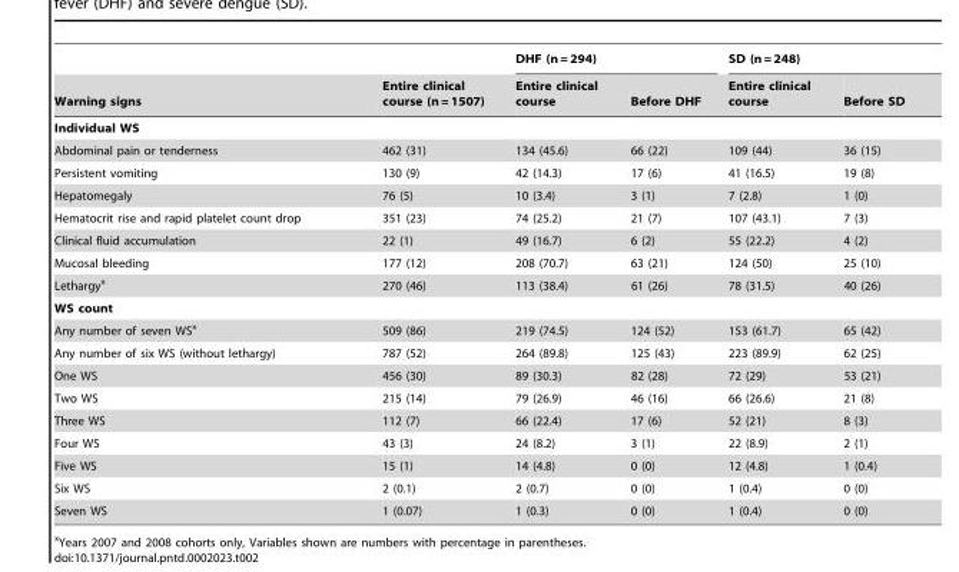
<table><thead><tr><td rowspan="2">Warning signs</td><td rowspan="2">Entire clinical course (n = 1507)</td><td colspan="2">DHF (n = 294)</td><td colspan="2">SD (n = 248)</td></tr><tr><td>Entire clinical course</td><td>Before DHF</td><td>Entire clinical course</td><td>Before SD</td></tr></thead><tbody><tr><td colspan="6">Individual WS</td></tr><tr><td>Abdominal pain or tenderness</td><td>462 (31)</td><td>134 (45.6)</td><td>66 (22)</td><td>109 (44)</td><td>36 (15)</td></tr><tr><td>Persistent vomiting</td><td>130 (9)</td><td>42 (14.3)</td><td>17 (6)</td><td>41 (16.5)</td><td>19 (8)</td></tr><tr><td>Hepatomegaly</td><td>76 (5)</td><td>10 (3.4)</td><td>3 (1)</td><td>7 (2.8)</td><td>1 (0)</td></tr><tr><td>Hematocrit rise and rapid platelet count drop</td><td>351 (23)</td><td>74 (25.2)</td><td>21 (7)</td><td>107 (43.1)</td><td>7 (3)</td></tr><tr><td>Clinical fluid accumulation</td><td>22 (1)</td><td>49 (16.7)</td><td>6 (2)</td><td>55 (22.2)</td><td>4 (2)</td></tr><tr><td>Mucosal bleeding</td><td>177 (12)</td><td>208 (70.7)</td><td>63 (21)</td><td>124 (50)</td><td>25 (10)</td></tr><tr><td>Lethargy<sup>x</sup></td><td>270 (46)</td><td>113 (38.4)</td><td>61 (26)</td><td>78 (31.5)</td><td>40 (26)</td></tr><tr><td colspan="6">WS count</td></tr><tr><td>Any number of seven WS<sup>x</sup></td><td>509 (86)</td><td>219 (74.5)</td><td>124 (52)</td><td>153 (61.7)</td><td>65 (42)</td></tr><tr><td>Any number of six WS (without lethargy)</td><td>787 (52)</td><td>264 (89.8)</td><td>125 (43)</td><td>223 (89.9)</td><td>62 (25)</td></tr><tr><td>One WS</td><td>456 (30)</td><td>89 (30.3)</td><td>82 (28)</td><td>72 (29)</td><td>53 (21)</td></tr><tr><td>Two WS</td><td>215 (14)</td><td>79 (26.9)</td><td>46 (16)</td><td>66 (26.6)</td><td>21 (8)</td></tr><tr><td>Three WS</td><td>112 (7)</td><td>66 (22.4)</td><td>17 (6)</td><td>52 (21)</td><td>8 (3)</td></tr><tr><td>Four WS</td><td>43 (3)</td><td>24 (8.2)</td><td>3 (1)</td><td>22 (8.9)</td><td>2 (1)</td></tr><tr><td>Five WS</td><td>15 (1)</td><td>14 (4.8)</td><td>0 (0)</td><td>12 (4.8)</td><td>1 (0.4)</td></tr><tr><td>Six WS</td><td>2 (0.1)</td><td>2 (0.7)</td><td>0 (0)</td><td>1 (0.4)</td><td>0 (0)</td></tr><tr><td>Seven WS</td><td>1 (0.07)</td><td>1 (0.3)</td><td>0 (0)</td><td>1 (0.4)</td><td>0 (0)</td></tr></tbody></table>